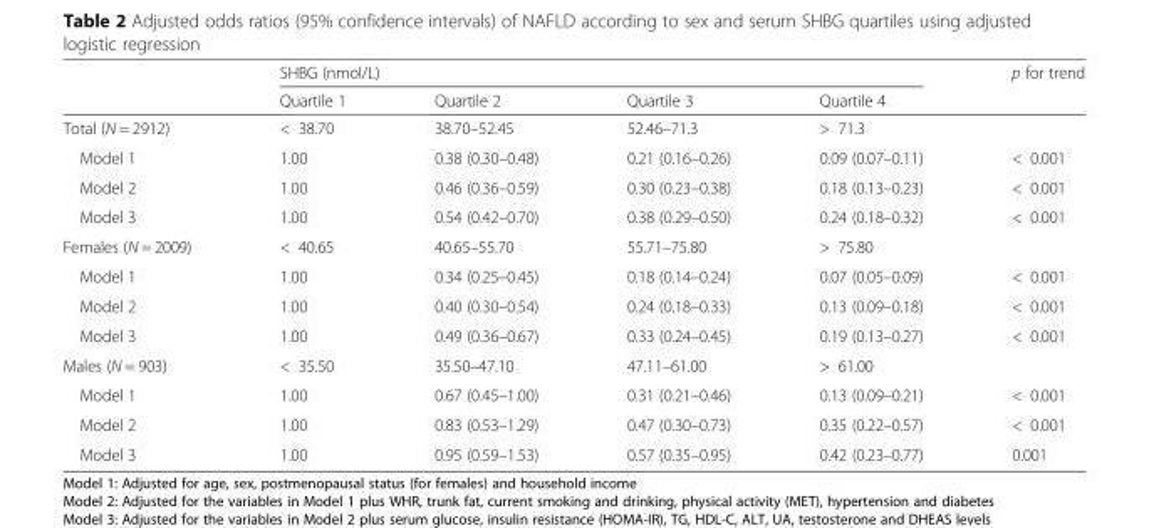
<table><thead><tr><td rowspan="2"></td><td colspan="4">SHBG (nmol/L)</td><td rowspan="2">p for trend</td></tr><tr><td>Quartile 1</td><td>Quartile 2</td><td>Quartile 3</td><td>Quartile 4</td></tr></thead><tbody><tr><td>Total (N = 2912)</td><td>&lt; 38.70</td><td>38.70–52.45</td><td>52.46–71.3</td><td>&gt; 71.3</td><td></td></tr><tr><td>Model 1</td><td>1.00</td><td>0.38 (0.30–0.48)</td><td>0.21 (0.16–0.26)</td><td>0.09 (0.07–0.11)</td><td>&lt; 0.001</td></tr><tr><td>Model 2</td><td>1.00</td><td>0.46 (0.36–0.59)</td><td>0.30 (0.23–0.38)</td><td>0.18 (0.13–0.23)</td><td>&lt; 0.001</td></tr><tr><td>Model 3</td><td>1.00</td><td>0.54 (0.42–0.70)</td><td>0.38 (0.29–0.50)</td><td>0.24 (0.18–0.32)</td><td>&lt; 0.001</td></tr><tr><td>Females (N = 2009)</td><td>&lt; 40.65</td><td>40.65–55.70</td><td>55.71–75.80</td><td>&gt; 75.80</td><td></td></tr><tr><td>Model 1</td><td>1.00</td><td>0.34 (0.25–0.45)</td><td>0.18 (0.14–0.24)</td><td>0.07 (0.05–0.09)</td><td>&lt; 0.001</td></tr><tr><td>Model 2</td><td>1.00</td><td>0.40 (0.30–0.54)</td><td>0.24 (0.18–0.33)</td><td>0.13 (0.09–0.18)</td><td>&lt; 0.001</td></tr><tr><td>Model 3</td><td>1.00</td><td>0.49 (0.36–0.67)</td><td>0.33 (0.24–0.45)</td><td>0.19 (0.13–0.27)</td><td>&lt; 0.001</td></tr><tr><td>Males (N = 903)</td><td>&lt; 35.50</td><td>35.50–47.10</td><td>47.11–61.00</td><td>&gt; 61.00</td><td></td></tr><tr><td>Model 1</td><td>1.00</td><td>0.67 (0.45–1.00)</td><td>0.31 (0.21–0.46)</td><td>0.13 (0.09–0.21)</td><td>&lt; 0.001</td></tr><tr><td>Model 2</td><td>1.00</td><td>0.83 (0.53–1.29)</td><td>0.47 (0.30–0.73)</td><td>0.35 (0.22–0.57)</td><td>&lt; 0.001</td></tr><tr><td>Model 3</td><td>1.00</td><td>0.95 (0.59–1.53)</td><td>0.57 (0.35–0.95)</td><td>0.42 (0.23–0.77)</td><td>0.001</td></tr></tbody></table>